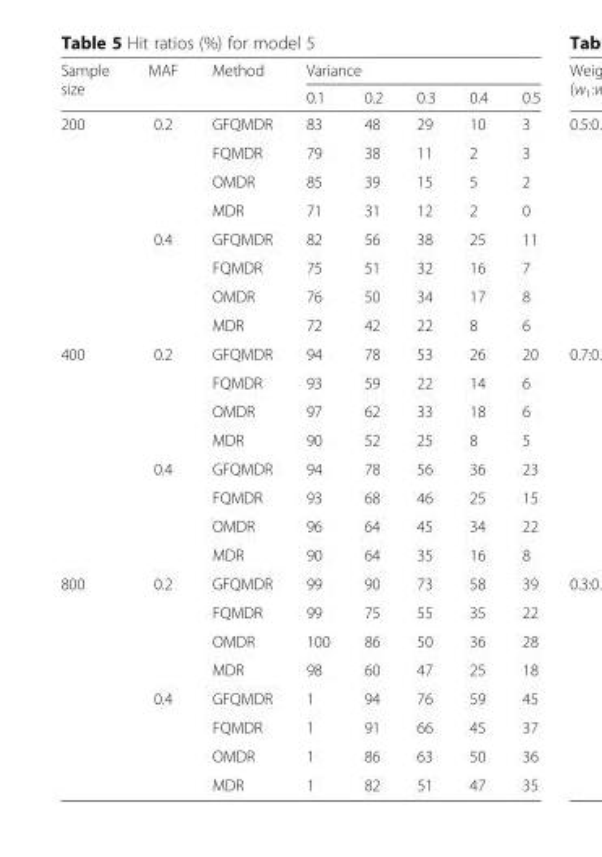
<table><thead><tr><td rowspan="2">Sample size</td><td rowspan="2">MAF</td><td rowspan="2">Method</td><td colspan="5">Variance</td></tr><tr><td>0.1</td><td>0.2</td><td>0.3</td><td>0.4</td><td>0.5</td></tr></thead><tbody><tr><td rowspan="8">200</td><td rowspan="4">0.2</td><td>GFQMDR</td><td>83</td><td>48</td><td>29</td><td>10</td><td>3</td></tr><tr><td>FQMDR</td><td>79</td><td>38</td><td>11</td><td>2</td><td>3</td></tr><tr><td>OMDR</td><td>85</td><td>39</td><td>15</td><td>5</td><td>2</td></tr><tr><td>MDR</td><td>71</td><td>31</td><td>12</td><td>2</td><td>0</td></tr><tr><td rowspan="4">0.4</td><td>GFQMDR</td><td>82</td><td>56</td><td>38</td><td>25</td><td>11</td></tr><tr><td>FQMDR</td><td>75</td><td>51</td><td>32</td><td>16</td><td>7</td></tr><tr><td>OMDR</td><td>76</td><td>50</td><td>34</td><td>17</td><td>8</td></tr><tr><td>MDR</td><td>72</td><td>42</td><td>22</td><td>8</td><td>6</td></tr><tr><td rowspan="8">400</td><td rowspan="4">0.2</td><td>GFQMDR</td><td>94</td><td>78</td><td>53</td><td>26</td><td>20</td></tr><tr><td>FQMDR</td><td>93</td><td>59</td><td>22</td><td>14</td><td>6</td></tr><tr><td>OMDR</td><td>97</td><td>62</td><td>33</td><td>18</td><td>6</td></tr><tr><td>MDR</td><td>90</td><td>52</td><td>25</td><td>8</td><td>5</td></tr><tr><td rowspan="4">0.4</td><td>GFQMDR</td><td>94</td><td>78</td><td>56</td><td>36</td><td>23</td></tr><tr><td>FQMDR</td><td>93</td><td>68</td><td>46</td><td>25</td><td>15</td></tr><tr><td>OMDR</td><td>96</td><td>64</td><td>45</td><td>34</td><td>22</td></tr><tr><td>MDR</td><td>90</td><td>64</td><td>35</td><td>16</td><td>8</td></tr><tr><td rowspan="8">800</td><td rowspan="4">0.2</td><td>GFQMDR</td><td>99</td><td>90</td><td>73</td><td>58</td><td>39</td></tr><tr><td>FQMDR</td><td>99</td><td>75</td><td>55</td><td>35</td><td>22</td></tr><tr><td>OMDR</td><td>100</td><td>86</td><td>50</td><td>36</td><td>28</td></tr><tr><td>MDR</td><td>98</td><td>60</td><td>47</td><td>25</td><td>18</td></tr><tr><td rowspan="4">0.4</td><td>GFQMDR</td><td>1</td><td>94</td><td>76</td><td>59</td><td>45</td></tr><tr><td>FQMDR</td><td>1</td><td>91</td><td>66</td><td>45</td><td>37</td></tr><tr><td>OMDR</td><td>1</td><td>86</td><td>63</td><td>50</td><td>36</td></tr><tr><td>MDR</td><td>1</td><td>82</td><td>51</td><td>47</td><td>35</td></tr></tbody></table>